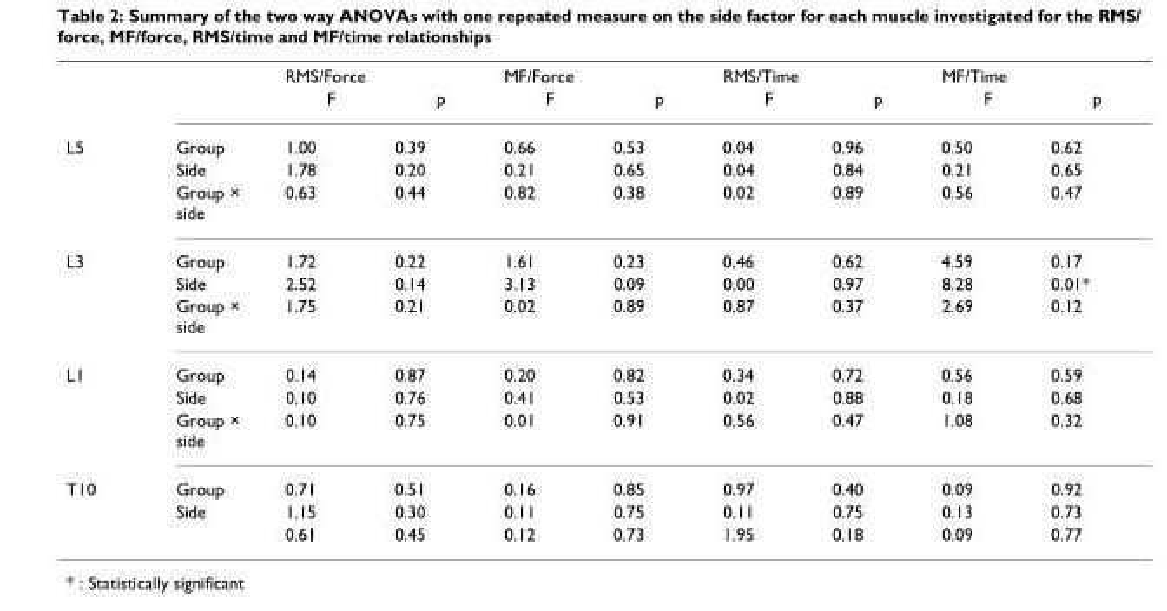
<table><thead><tr><td rowspan="2"></td><td rowspan="2"></td><td colspan="2">RMS/Force</td><td colspan="2">MF/Force</td><td colspan="2">RMS/Time</td><td colspan="2">MF/Time</td></tr><tr><td>F</td><td>p</td><td>F</td><td>p</td><td>F</td><td>p</td><td>F</td><td>p</td></tr></thead><tbody><tr><td rowspan="3">L5</td><td>Group</td><td>1.00</td><td>0.39</td><td>0.66</td><td>0.53</td><td>0.04</td><td>0.96</td><td>0.50</td><td>0.62</td></tr><tr><td>Side</td><td>1.78</td><td>0.20</td><td>0.21</td><td>0.65</td><td>0.04</td><td>0.84</td><td>0.21</td><td>0.65</td></tr><tr><td>Group × side</td><td>0.63</td><td>0.44</td><td>0.82</td><td>0.38</td><td>0.02</td><td>0.89</td><td>0.56</td><td>0.47</td></tr><tr><td rowspan="3">L3</td><td>Group</td><td>1.72</td><td>0.22</td><td>1.61</td><td>0.23</td><td>0.46</td><td>0.62</td><td>4.59</td><td>0.17</td></tr><tr><td>Side</td><td>2.52</td><td>0.14</td><td>3.13</td><td>0.09</td><td>0.00</td><td>0.97</td><td>8.28</td><td>0.01*</td></tr><tr><td>Group × side</td><td>1.75</td><td>0.21</td><td>0.02</td><td>0.89</td><td>0.87</td><td>0.37</td><td>2.69</td><td>0.12</td></tr><tr><td rowspan="3">L1</td><td>Group</td><td>0.14</td><td>0.87</td><td>0.20</td><td>0.82</td><td>0.34</td><td>0.72</td><td>0.56</td><td>0.59</td></tr><tr><td>Side</td><td>0.10</td><td>0.76</td><td>0.41</td><td>0.53</td><td>0.02</td><td>0.88</td><td>0.18</td><td>0.68</td></tr><tr><td>Group × side</td><td>0.10</td><td>0.75</td><td>0.01</td><td>0.91</td><td>0.56</td><td>0.47</td><td>1.08</td><td>0.32</td></tr><tr><td rowspan="3">T10</td><td>Group</td><td>0.71</td><td>0.51</td><td>0.16</td><td>0.85</td><td>0.97</td><td>0.40</td><td>0.09</td><td>0.92</td></tr><tr><td>Side</td><td>1.15</td><td>0.30</td><td>0.11</td><td>0.75</td><td>0.11</td><td>0.75</td><td>0.13</td><td>0.73</td></tr><tr><td></td><td>0.61</td><td>0.45</td><td>0.12</td><td>0.73</td><td>1.95</td><td>0.18</td><td>0.09</td><td>0.77</td></tr></tbody></table>